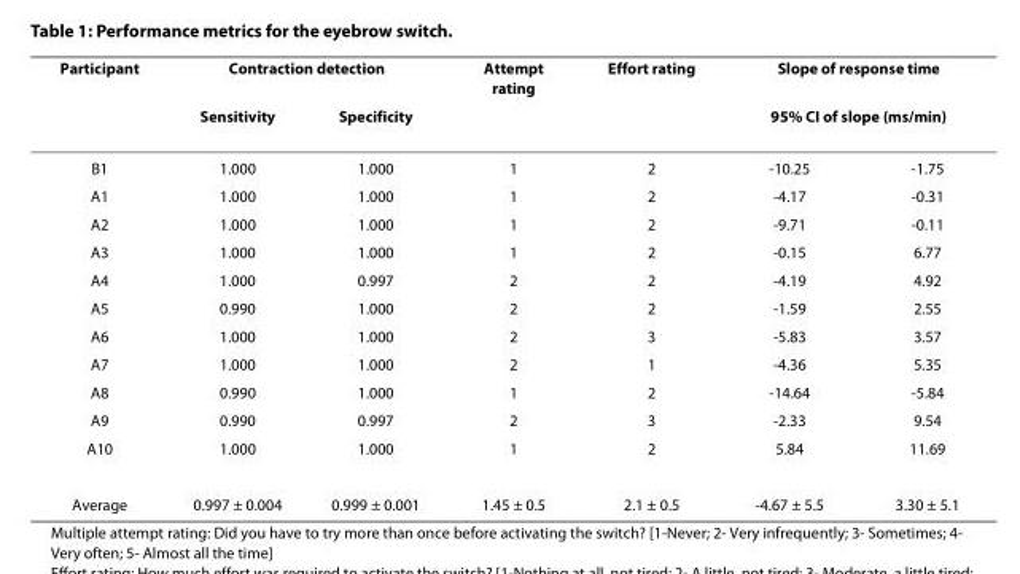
<table><thead><tr><td rowspan="3">Participant B1</td><td colspan="2">Contraction detection</td><td rowspan="3">Attempt rating 1</td><td rowspan="3">Effort rating 2</td><td rowspan="2" colspan="2">Slope of response time 95% CI of slope (ms/min)</td></tr><tr><td rowspan="2">Sensitivity 1.000</td><td rowspan="2">Specificity 1.000</td></tr><tr><td>-10.25</td><td>-1.75</td></tr></thead><tbody><tr><td>A1</td><td>1.000</td><td>1.000</td><td>1</td><td>2</td><td>-4.17</td><td>-0.31</td></tr><tr><td>A2</td><td>1.000</td><td>1.000</td><td>1</td><td>2</td><td>-9.71</td><td>-0.11</td></tr><tr><td>A3</td><td>1.000</td><td>1.000</td><td>1</td><td>2</td><td>-0.15</td><td>6.77</td></tr><tr><td>A4</td><td>1.000</td><td>0.997</td><td>2</td><td>2</td><td>-4.19</td><td>4.92</td></tr><tr><td>A5</td><td>0.990</td><td>1.000</td><td>2</td><td>2</td><td>-1.59</td><td>2.55</td></tr><tr><td>A6</td><td>1.000</td><td>1.000</td><td>2</td><td>3</td><td>-5.83</td><td>3.57</td></tr><tr><td>A7</td><td>1.000</td><td>1.000</td><td>2</td><td>1</td><td>-4.36</td><td>5.35</td></tr><tr><td>A8</td><td>0.990</td><td>1.000</td><td>1</td><td>2</td><td>-14.64</td><td>-5.84</td></tr><tr><td>A9</td><td>0.990</td><td>0.997</td><td>2</td><td>3</td><td>-2.33</td><td>9.54</td></tr><tr><td>A10</td><td>1.000</td><td>1.000</td><td>1</td><td>2</td><td>5.84</td><td>11.69</td></tr><tr><td>Average</td><td>0.997 ± 0.004</td><td>0.999 ± 0.001</td><td>1.45 ± 0.5</td><td>2.1 ± 0.5</td><td>-4.67 ± 5.5</td><td>3.30 ± 5.1</td></tr></tbody></table>